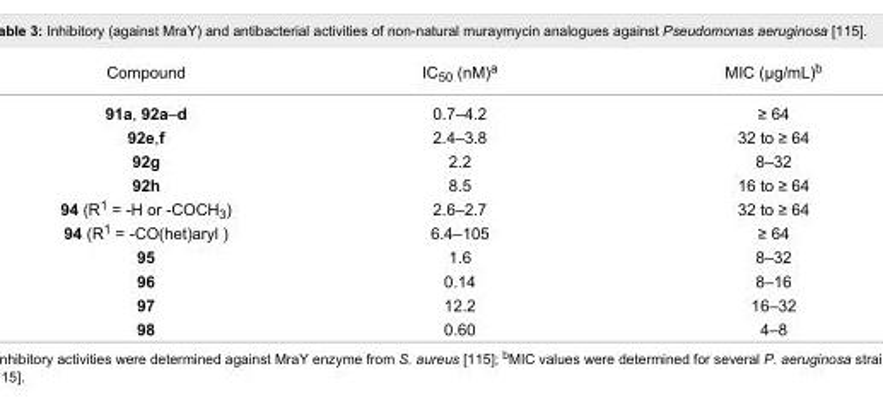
<table><tbody><tr><td>Compound</td><td>IC<sub>50</sub> (nM)<sup>a</sup></td><td>MIC (μg/mL)<sup>b</sup></td></tr><tr><td>91a, 92a–d</td><td>0.7–4.2</td><td>≥ 64</td></tr><tr><td>92e,f</td><td>2.4–3.8</td><td>32 to ≥ 64</td></tr><tr><td>92g</td><td>2.2</td><td>8–32</td></tr><tr><td>92h</td><td>8.5</td><td>16 to ≥ 64</td></tr><tr><td>94 (R<sup>1</sup> = -H or -COCH<sub>3</sub>)</td><td>2.6–2.7</td><td>32 to ≥ 64</td></tr><tr><td>94 (R<sup>1</sup> = -CO(het)aryl )</td><td>6.4–105</td><td>≥ 64</td></tr><tr><td>95</td><td>1.6</td><td>8–32</td></tr><tr><td>96</td><td>0.14</td><td>8–16</td></tr><tr><td>97</td><td>12.2</td><td>16–32</td></tr><tr><td>98</td><td>0.60</td><td>4–8</td></tr></tbody></table>